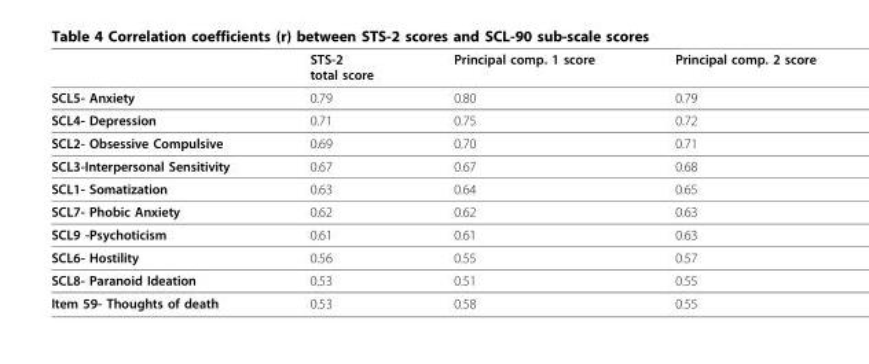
<table><thead><tr><td></td><td>STS-2 total score</td><td>Principal comp. 1 score</td><td>Principal comp. 2 score</td></tr></thead><tbody><tr><td>SCL5- Anxiety</td><td>0.79</td><td>0.80</td><td>0.79</td></tr><tr><td>SCL4- Depression</td><td>0.71</td><td>0.75</td><td>0.72</td></tr><tr><td>SCL2- Obsessive Compulsive</td><td>0.69</td><td>0.70</td><td>0.71</td></tr><tr><td>SCL3-Interpersonal Sensitivity</td><td>0.67</td><td>0.67</td><td>0.68</td></tr><tr><td>SCL1- Somatization</td><td>0.63</td><td>0.64</td><td>0.65</td></tr><tr><td>SCL7- Phobic Anxiety</td><td>0.62</td><td>0.62</td><td>0.63</td></tr><tr><td>SCL9 -Psychoticism</td><td>0.61</td><td>0.61</td><td>0.63</td></tr><tr><td>SCL6- Hostility</td><td>0.56</td><td>0.55</td><td>0.57</td></tr><tr><td>SCL8- Paranoid Ideation</td><td>0.53</td><td>0.51</td><td>0.55</td></tr><tr><td>Item 59- Thoughts of death</td><td>0.53</td><td>0.58</td><td>0.55</td></tr></tbody></table>